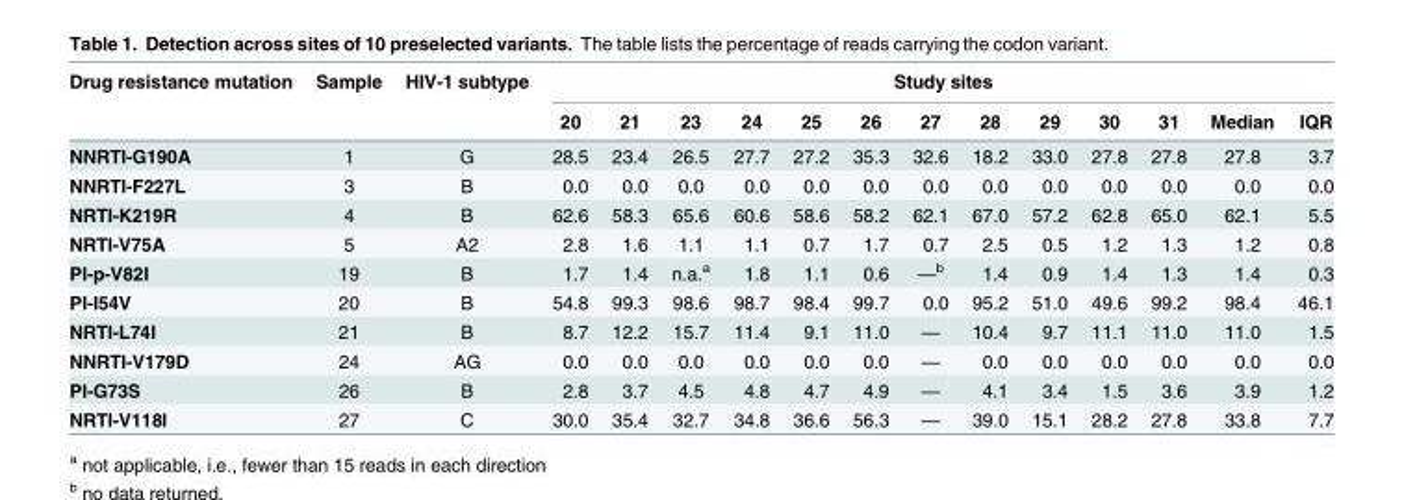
<table><thead><tr><td rowspan="2">Drug resistance mutation</td><td rowspan="2">Sample</td><td rowspan="2">HIV-1 subtype</td><td colspan="13">Study sites</td></tr><tr><td>20</td><td>21</td><td>23</td><td>24</td><td>25</td><td>26</td><td>27</td><td>28</td><td>29</td><td>30</td><td>31</td><td>Median</td><td>IQR</td></tr></thead><tbody><tr><td>NNRTI-G190A</td><td>1</td><td>G</td><td>28.5</td><td>23.4</td><td>26.5</td><td>27.7</td><td>27.2</td><td>35.3</td><td>32.6</td><td>18.2</td><td>33.0</td><td>27.8</td><td>27.8</td><td>27.8</td><td>3.7</td></tr><tr><td>NNRTI-F227L</td><td>3</td><td>B</td><td>0.0</td><td>0.0</td><td>0.0</td><td>0.0</td><td>0.0</td><td>0.0</td><td>0.0</td><td>0.0</td><td>0.0</td><td>0.0</td><td>0.0</td><td>0.0</td><td>0.0</td></tr><tr><td>NRTI-K219R</td><td>4</td><td>B</td><td>62.6</td><td>58.3</td><td>65.6</td><td>60.6</td><td>58.6</td><td>58.2</td><td>62.1</td><td>67.0</td><td>57.2</td><td>62.8</td><td>65.0</td><td>62.1</td><td>5.5</td></tr><tr><td>NRTI-V75A</td><td>5</td><td>A2</td><td>2.8</td><td>1.6</td><td>1.1</td><td>1.1</td><td>0.7</td><td>1.7</td><td>0.7</td><td>2.5</td><td>0.5</td><td>1.2</td><td>1.3</td><td>1.2</td><td>0.8</td></tr><tr><td>PI-p-V82I</td><td>19</td><td>B</td><td>1.7</td><td>1.4</td><td>n.a.<sup>a</sup></td><td>1.8</td><td>1.1</td><td>0.6</td><td>—<sup>b</sup></td><td>1.4</td><td>0.9</td><td>1.4</td><td>1.3</td><td>1.4</td><td>0.3</td></tr><tr><td>PI-I54V</td><td>20</td><td>B</td><td>54.8</td><td>99.3</td><td>98.6</td><td>98.7</td><td>98.4</td><td>99.7</td><td>0.0</td><td>95.2</td><td>51.0</td><td>49.6</td><td>99.2</td><td>98.4</td><td>46.1</td></tr><tr><td>NRTI-L74I</td><td>21</td><td>B</td><td>8.7</td><td>12.2</td><td>15.7</td><td>11.4</td><td>9.1</td><td>11.0</td><td>—</td><td>10.4</td><td>9.7</td><td>11.1</td><td>11.0</td><td>11.0</td><td>1.5</td></tr><tr><td>NNRTI-V179D</td><td>24</td><td>AG</td><td>0.0</td><td>0.0</td><td>0.0</td><td>0.0</td><td>0.0</td><td>0.0</td><td>—</td><td>0.0</td><td>0.0</td><td>0.0</td><td>0.0</td><td>0.0</td><td>0.0</td></tr><tr><td>PI-G73S</td><td>26</td><td>B</td><td>2.8</td><td>3.7</td><td>4.5</td><td>4.8</td><td>4.7</td><td>4.9</td><td>—</td><td>4.1</td><td>3.4</td><td>1.5</td><td>3.6</td><td>3.9</td><td>1.2</td></tr><tr><td>NRTI-V118I</td><td>27</td><td>C</td><td>30.0</td><td>35.4</td><td>32.7</td><td>34.8</td><td>36.6</td><td>56.3</td><td>—</td><td>39.0</td><td>15.1</td><td>28.2</td><td>27.8</td><td>33.8</td><td>7.7</td></tr></tbody></table>